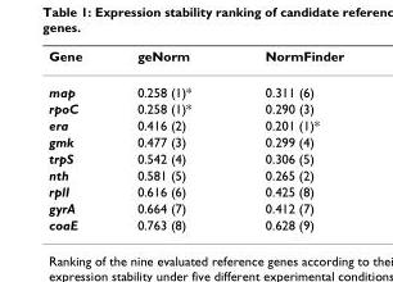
<table><thead><tr><td>Gene</td><td>geNorm</td><td>NormFinder</td></tr></thead><tbody><tr><td>map</td><td>0.258 (1)*</td><td>0.311 (6)</td></tr><tr><td>rpoC</td><td>0.258 (1)*</td><td>0.290 (3)</td></tr><tr><td>era</td><td>0.416 (2)</td><td>0.201 (1)*</td></tr><tr><td>gmk</td><td>0.477 (3)</td><td>0.299 (4)</td></tr><tr><td>trpS</td><td>0.542 (4)</td><td>0.306 (5)</td></tr><tr><td>nth</td><td>0.581 (5)</td><td>0.265 (2)</td></tr><tr><td>rplI</td><td>0.616 (6)</td><td>0.425 (8)</td></tr><tr><td>gyrA</td><td>0.664 (7)</td><td>0.412 (7)</td></tr><tr><td>coaE</td><td>0.763 (8)</td><td>0.628 (9)</td></tr></tbody></table>